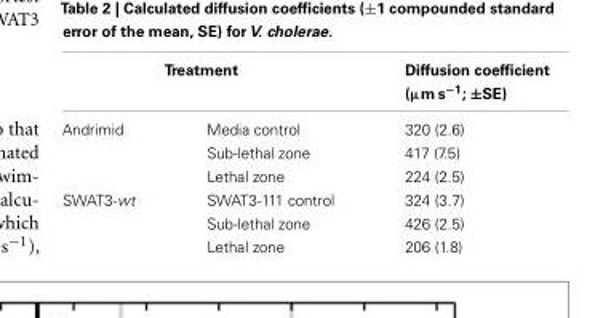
<table><thead><tr><td colspan="2">Treatment</td><td rowspan="2">Diffusion coefficient (µm s<sup>−1</sup>; ±SE) 320 (2.6)</td></tr><tr><td>Andrimid</td><td>Media control</td></tr></thead><tbody><tr><td></td><td>Sub-lethal zone</td><td>417 (7.5)</td></tr><tr><td></td><td>Lethal zone</td><td>224 (2.5)</td></tr><tr><td rowspan="3">SWAT3-wt</td><td>SWAT3-111 control</td><td>324 (3.7)</td></tr><tr><td>Sub-lethal zone</td><td>426 (2.5)</td></tr><tr><td>Lethal zone</td><td>206 (1.8)</td></tr></tbody></table>